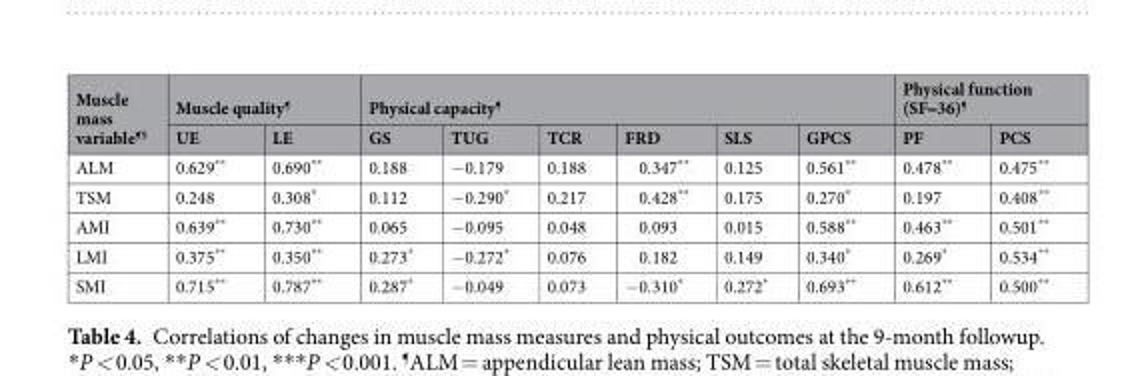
<table><thead><tr><td rowspan="2">Muscle mass variable<sup>¶§</sup></td><td colspan="2">Muscle quality<sup>¶</sup></td><td colspan="6">Physical capacity<sup>¶</sup></td><td colspan="2">Physical function (SF‒36)<sup>¶</sup></td></tr><tr><td>UE</td><td>LE</td><td>GS</td><td>TUG</td><td>TCR</td><td>FRD</td><td>SLS</td><td>GPCS</td><td>PF</td><td>PCS</td></tr></thead><tbody><tr><td>ALM</td><td>0.629**</td><td>0.690**</td><td>0.188</td><td>−0.179</td><td>0.188</td><td>0.347**</td><td>0.125</td><td>0.561**</td><td>0.478**</td><td>0.475**</td></tr><tr><td>TSM</td><td>0.248</td><td>0.308*</td><td>0.112</td><td>−0.290*</td><td>0.217</td><td>0.428**</td><td>0.175</td><td>0.270*</td><td>0.197</td><td>0.408**</td></tr><tr><td>AMI</td><td>0.639**</td><td>0.730**</td><td>0.065</td><td>−0.095</td><td>0.048</td><td>0.093</td><td>0.015</td><td>0.588**</td><td>0.463**</td><td>0.501**</td></tr><tr><td>LMI</td><td>0.375**</td><td>0.350**</td><td>0.273*</td><td>−0.272*</td><td>0.076</td><td>0.182</td><td>0.149</td><td>0.340*</td><td>0.269*</td><td>0.534**</td></tr><tr><td>SMI</td><td>0.715**</td><td>0.787**</td><td>0.287*</td><td>−0.049</td><td>0.073</td><td>−0.310*</td><td>0.272*</td><td>0.693**</td><td>0.612**</td><td>0.500**</td></tr></tbody></table>